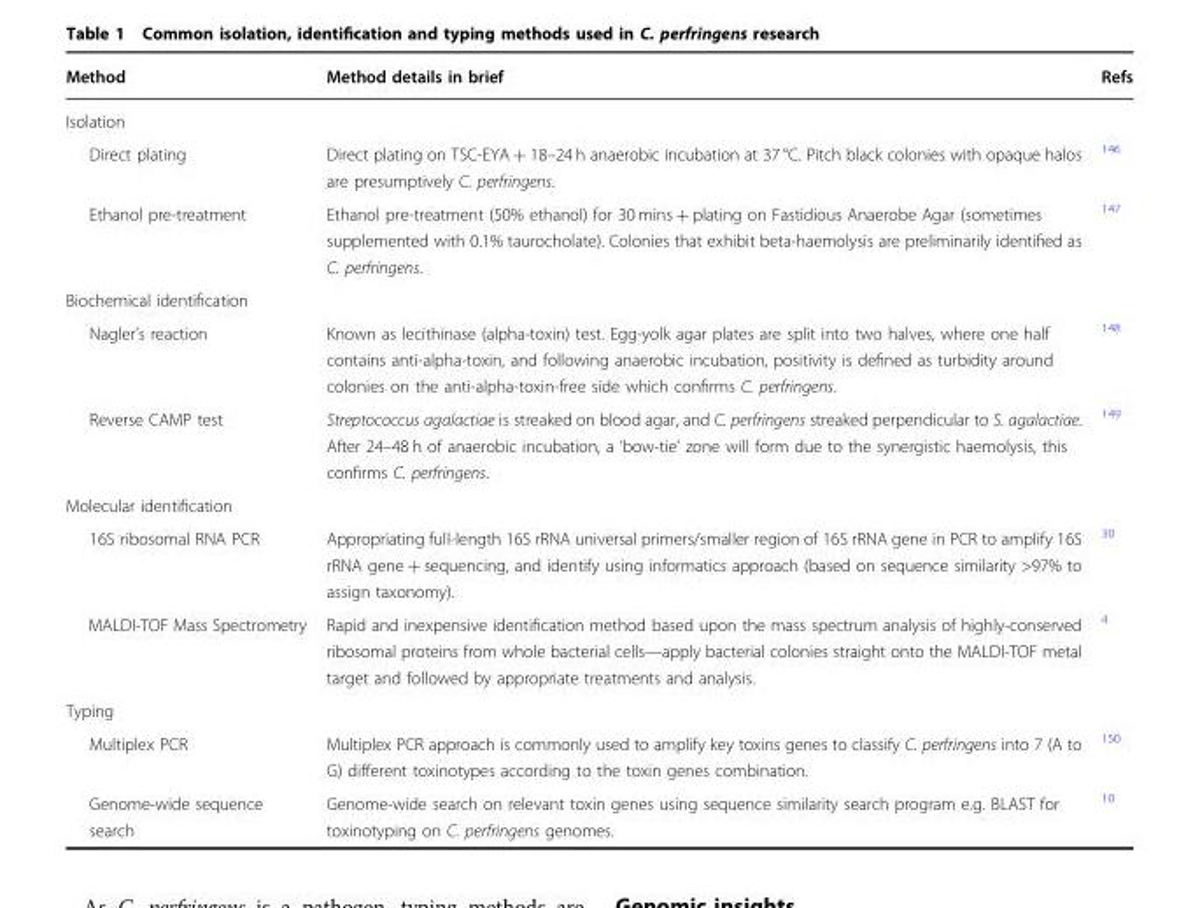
<table><thead><tr><td>Method</td><td>Method details in brief</td><td>Refs</td></tr></thead><tbody><tr><td colspan="3">Isolation</td></tr><tr><td>Direct plating</td><td>Direct plating on TSC-EYA + 18–24 h anaerobic incubation at 37 °C. Pitch black colonies with opaque halos are presumptively C. perfringens.</td><td><sup>146</sup></td></tr><tr><td>Ethanol pre-treatment</td><td>Ethanol pre-treatment (50% ethanol) for 30 mins + plating on Fastidious Anaerobe Agar (sometimes supplemented with 0.1% taurocholate). Colonies that exhibit beta-haemolysis are preliminarily identified as C. perfringens.</td><td><sup>147</sup></td></tr><tr><td colspan="3">Biochemical identification</td></tr><tr><td>Nagler’s reaction</td><td>Known as lecithinase (alpha-toxin) test. Egg-yolk agar plates are split into two halves, where one half contains anti-alpha-toxin, and following anaerobic incubation, positivity is defined as turbidity around colonies on the anti-alpha-toxin-free side which confirms C. perfringens.</td><td><sup>148</sup></td></tr><tr><td>Reverse CAMP test</td><td>Streptococcus agalactiae is streaked on blood agar, and C. perfringens streaked perpendicular to S. agalactiae. After 24–48 h of anaerobic incubation, a ‘bow-tie’ zone will form due to the synergistic haemolysis, this confirms C. perfringens.</td><td><sup>149</sup></td></tr><tr><td colspan="3">Molecular identification</td></tr><tr><td>16S ribosomal RNA PCR</td><td>Appropriating full-length 16S rRNA universal primers/smaller region of 16S rRNA gene in PCR to amplify 16S rRNA gene + sequencing, and identify using informatics approach (based on sequence similarity &gt;97% to assign taxonomy).</td><td><sup>30</sup></td></tr><tr><td>MALDI-TOF Mass Spectrometry</td><td>Rapid and inexpensive identification method based upon the mass spectrum analysis of highly-conserved ribosomal proteins from whole bacterial cells—apply bacterial colonies straight onto the MALDI-TOF metal target and followed by appropriate treatments and analysis.</td><td><sup>4</sup></td></tr><tr><td colspan="3">Typing</td></tr><tr><td>Multiplex PCR</td><td>Multiplex PCR approach is commonly used to amplify key toxins genes to classify C. perfringens into 7 (A to G) different toxinotypes according to the toxin genes combination.</td><td><sup>150</sup></td></tr><tr><td>Genome-wide sequence search</td><td>Genome-wide search on relevant toxin genes using sequence similarity search program e.g. BLAST for toxinotyping on C. perfringens genomes.</td><td><sup>10</sup></td></tr></tbody></table>